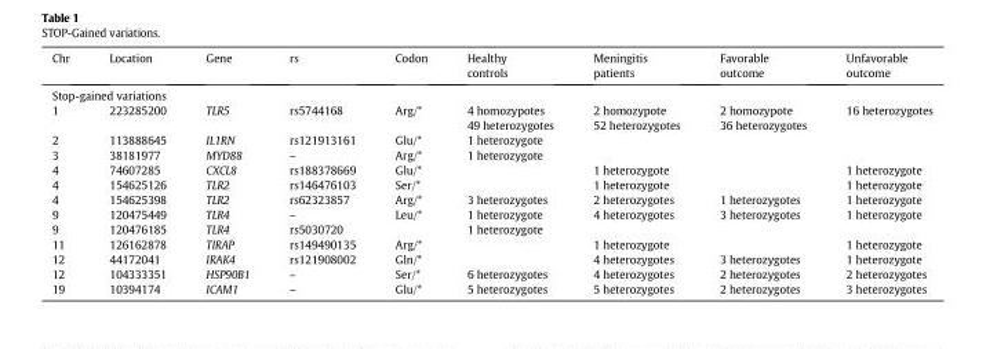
<table><thead><tr><td>Chr</td><td>Location</td><td>Gene</td><td>rs</td><td>Codon</td><td>Healthy controls</td><td>Meningitis patients</td><td>Favorable outcome</td><td>Unfavorable outcome</td></tr></thead><tbody><tr><td colspan="9">Stop-gained variations</td></tr><tr><td>1</td><td>223285200</td><td>TLR5</td><td>rs5744168</td><td>Arg/*</td><td>4 homozypotes 49 heterozygotes</td><td>2 homozypote 52 heterozygotes</td><td>2 homozypote 36 heterozygotes</td><td>16 heterozygotes</td></tr><tr><td>2</td><td>113888645</td><td>IL1RN</td><td>rs121913161</td><td>Glu/*</td><td>1 heterozygote</td><td></td><td></td><td></td></tr><tr><td>3</td><td>38181977</td><td>MYD88</td><td>–</td><td>Arg/*</td><td>1 heterozygote</td><td></td><td></td><td></td></tr><tr><td>4</td><td>74607285</td><td>CXCL8</td><td>rs188378669</td><td>Glu/*</td><td></td><td>1 heterozygote</td><td></td><td>1 heterozygote</td></tr><tr><td>4</td><td>154625126</td><td>TLR2</td><td>rs146476103</td><td>Ser/*</td><td></td><td>1 heterozygote</td><td></td><td>1 heterozygote</td></tr><tr><td>4</td><td>154625398</td><td>TLR2</td><td>rs62323857</td><td>Arg/*</td><td>3 heterozygotes</td><td>2 heterozygotes</td><td>1 heterozygotes</td><td>1 heterozygote</td></tr><tr><td>9</td><td>120475449</td><td>TLR4</td><td>–</td><td>Leu/*</td><td>1 heterozygote</td><td>4 heterozygotes</td><td>3 heterozygotes</td><td>1 heterozygote</td></tr><tr><td>9</td><td>120476185</td><td>TLR4</td><td>rs5030720</td><td></td><td>1 heterozygote</td><td></td><td></td><td></td></tr><tr><td>11</td><td>126162878</td><td>TIRAP</td><td>rs149490135</td><td>Arg/*</td><td></td><td>1 heterozygote</td><td></td><td>1 heterozygote</td></tr><tr><td>12</td><td>44172041</td><td>IRAK4</td><td>rs121908002</td><td>Gln/*</td><td></td><td>4 heterozygotes</td><td>3 heterozygotes</td><td>1 heterozygote</td></tr><tr><td>12</td><td>104333351</td><td>HSP90B1</td><td>–</td><td>Ser/*</td><td>6 heterozygotes</td><td>4 heterozygotes</td><td>2 heterozygotes</td><td>2 heterozygotes</td></tr><tr><td>19</td><td>10394174</td><td>ICAM1</td><td>–</td><td>Glu/*</td><td>5 heterozygotes</td><td>5 heterozygotes</td><td>2 heterozygotes</td><td>3 heterozygotes</td></tr></tbody></table>